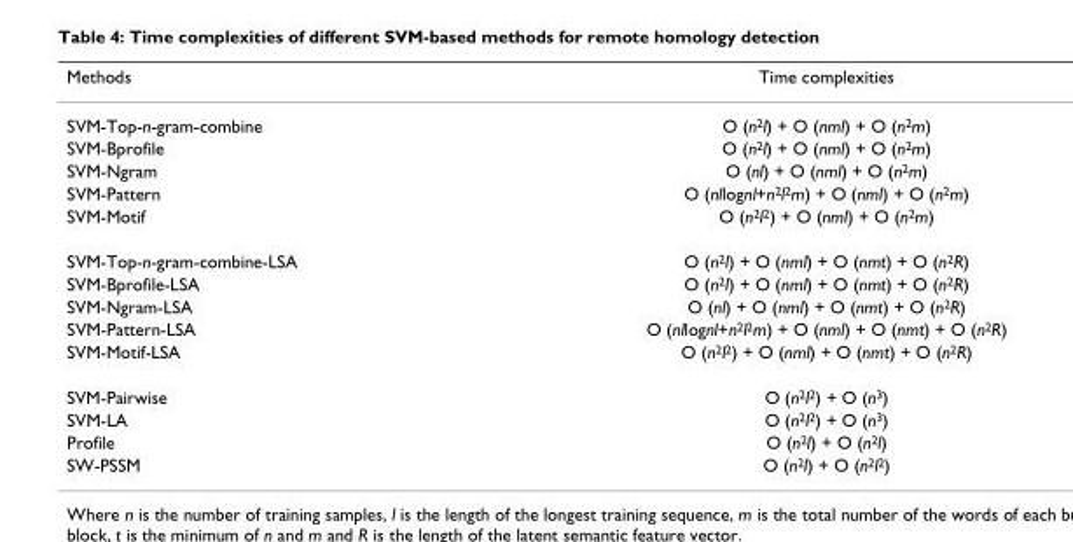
<table><thead><tr><td>Methods</td><td>Time complexities</td></tr></thead><tbody><tr><td>SVM-Top-n-gram-combine</td><td>O (n<sup>2</sup>l) + O (nml) + O (n<sup>2</sup>m)</td></tr><tr><td>SVM-Bprofile</td><td>O (n<sup>2</sup>l) + O (nml) + O (n<sup>2</sup>m)</td></tr><tr><td>SVM-Ngram</td><td>O (nl) + O (nml) + O (n<sup>2</sup>m)</td></tr><tr><td>SVM-Pattern</td><td>O (nllognl+n<sup>2</sup>l<sup>2</sup>m) + O (nml) + O (n<sup>2</sup>m)</td></tr><tr><td>SVM-Motif</td><td>O (n<sup>2</sup>l<sup>2</sup>) + O (nml) + O (n<sup>2</sup>m)</td></tr><tr><td>SVM-Top-n-gram-combine-LSA</td><td>O (n<sup>2</sup>l) + O (nml) + O (nmt) + O (n<sup>2</sup>R)</td></tr><tr><td>SVM-Bprofile-LSA</td><td>O (n<sup>2</sup>l) + O (nml) + O (nmt) + O (n<sup>2</sup>R)</td></tr><tr><td>SVM-Ngram-LSA</td><td>O (nl) + O (nml) + O (nmt) + O (n<sup>2</sup>R)</td></tr><tr><td>SVM-Pattern-LSA</td><td>O (nllognl+n<sup>2</sup>l<sup>2</sup>m) + O (nml) + O (nmt) + O (n<sup>2</sup>R)</td></tr><tr><td>SVM-Motif-LSA</td><td>O (n<sup>2</sup>l<sup>2</sup>) + O (nml) + O (nmt) + O (n<sup>2</sup>R)</td></tr><tr><td>SVM-Pairwise</td><td>O (n<sup>2</sup>l<sup>2</sup>) + O (n<sup>3</sup>)</td></tr><tr><td>SVM-LA</td><td>O (n<sup>2</sup>l<sup>2</sup>) + O (n<sup>3</sup>)</td></tr><tr><td>Profile</td><td>O (n<sup>2</sup>l) + O (n<sup>2</sup>l)</td></tr><tr><td>SW-PSSM</td><td>O (n<sup>2</sup>l) + O (n<sup>2</sup>l<sup>2</sup>)</td></tr></tbody></table>